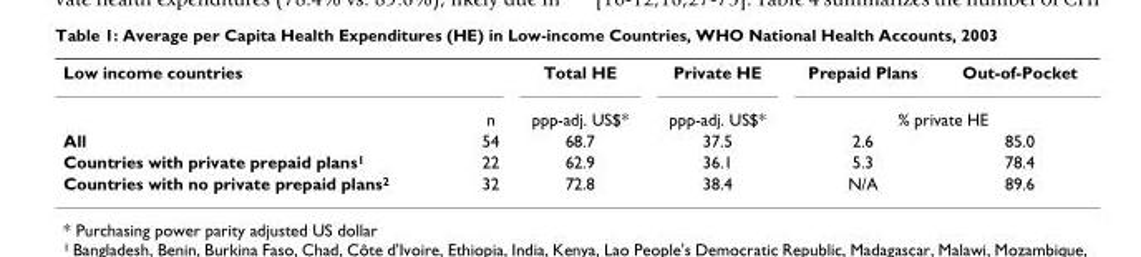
<table><tbody><tr><td colspan="2">Low income countries</td><td>Total HE</td><td>Private HE</td><td>Prepaid Plans</td><td>Out-of-Pocket</td></tr><tr><td></td><td>n</td><td>ppp-adj. US$*</td><td>ppp-adj. US$*</td><td colspan="2">% private HE</td></tr><tr><td>All</td><td>54</td><td>68.7</td><td>37.5</td><td>2.6</td><td>85.0</td></tr><tr><td>Countries with private prepaid plans<sup>1</sup></td><td>22</td><td>62.9</td><td>36.1</td><td>5.3</td><td>78.4</td></tr><tr><td>Countries with no private prepaid plans<sup>2</sup></td><td>32</td><td>72.8</td><td>38.4</td><td>N/A</td><td>89.6</td></tr></tbody></table>